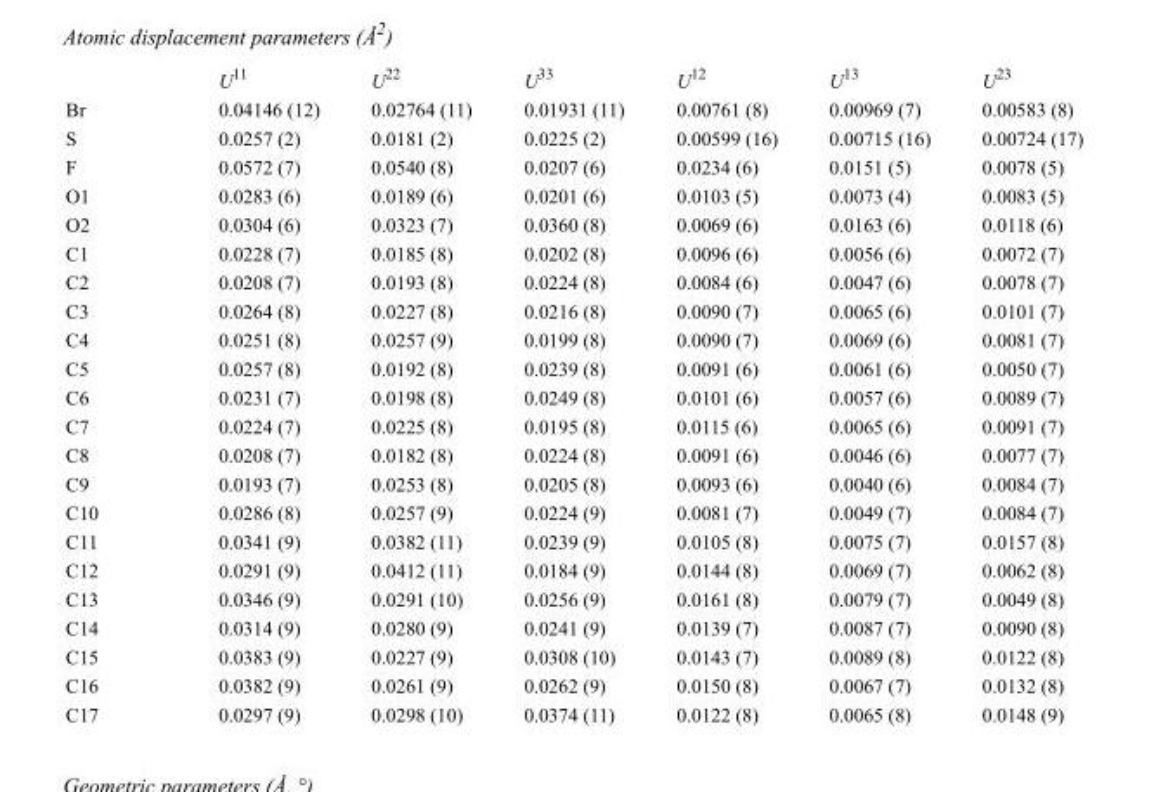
<table><thead><tr><td></td><td>U<sup>11</sup></td><td>U<sup>22</sup></td><td>U<sup>33</sup></td><td>U<sup>12</sup></td><td>U<sup>13</sup></td><td>U<sup>23</sup></td></tr></thead><tbody><tr><td>Br</td><td>0.04146 (12)</td><td>0.02764 (11)</td><td>0.01931 (11)</td><td>0.00761 (8)</td><td>0.00969 (7)</td><td>0.00583 (8)</td></tr><tr><td>S</td><td>0.0257 (2)</td><td>0.0181 (2)</td><td>0.0225 (2)</td><td>0.00599 (16)</td><td>0.00715 (16)</td><td>0.00724 (17)</td></tr><tr><td>F</td><td>0.0572 (7)</td><td>0.0540 (8)</td><td>0.0207 (6)</td><td>0.0234 (6)</td><td>0.0151 (5)</td><td>0.0078 (5)</td></tr><tr><td>O1</td><td>0.0283 (6)</td><td>0.0189 (6)</td><td>0.0201 (6)</td><td>0.0103 (5)</td><td>0.0073 (4)</td><td>0.0083 (5)</td></tr><tr><td>O2</td><td>0.0304 (6)</td><td>0.0323 (7)</td><td>0.0360 (8)</td><td>0.0069 (6)</td><td>0.0163 (6)</td><td>0.0118 (6)</td></tr><tr><td>C1</td><td>0.0228 (7)</td><td>0.0185 (8)</td><td>0.0202 (8)</td><td>0.0096 (6)</td><td>0.0056 (6)</td><td>0.0072 (7)</td></tr><tr><td>C2</td><td>0.0208 (7)</td><td>0.0193 (8)</td><td>0.0224 (8)</td><td>0.0084 (6)</td><td>0.0047 (6)</td><td>0.0078 (7)</td></tr><tr><td>C3</td><td>0.0264 (8)</td><td>0.0227 (8)</td><td>0.0216 (8)</td><td>0.0090 (7)</td><td>0.0065 (6)</td><td>0.0101 (7)</td></tr><tr><td>C4</td><td>0.0251 (8)</td><td>0.0257 (9)</td><td>0.0199 (8)</td><td>0.0090 (7)</td><td>0.0069 (6)</td><td>0.0081 (7)</td></tr><tr><td>C5</td><td>0.0257 (8)</td><td>0.0192 (8)</td><td>0.0239 (8)</td><td>0.0091 (6)</td><td>0.0061 (6)</td><td>0.0050 (7)</td></tr><tr><td>C6</td><td>0.0231 (7)</td><td>0.0198 (8)</td><td>0.0249 (8)</td><td>0.0101 (6)</td><td>0.0057 (6)</td><td>0.0089 (7)</td></tr><tr><td>C7</td><td>0.0224 (7)</td><td>0.0225 (8)</td><td>0.0195 (8)</td><td>0.0115 (6)</td><td>0.0065 (6)</td><td>0.0091 (7)</td></tr><tr><td>C8</td><td>0.0208 (7)</td><td>0.0182 (8)</td><td>0.0224 (8)</td><td>0.0091 (6)</td><td>0.0046 (6)</td><td>0.0077 (7)</td></tr><tr><td>C9</td><td>0.0193 (7)</td><td>0.0253 (8)</td><td>0.0205 (8)</td><td>0.0093 (6)</td><td>0.0040 (6)</td><td>0.0084 (7)</td></tr><tr><td>C10</td><td>0.0286 (8)</td><td>0.0257 (9)</td><td>0.0224 (9)</td><td>0.0081 (7)</td><td>0.0049 (7)</td><td>0.0084 (7)</td></tr><tr><td>C11</td><td>0.0341 (9)</td><td>0.0382 (11)</td><td>0.0239 (9)</td><td>0.0105 (8)</td><td>0.0075 (7)</td><td>0.0157 (8)</td></tr><tr><td>C12</td><td>0.0291 (9)</td><td>0.0412 (11)</td><td>0.0184 (9)</td><td>0.0144 (8)</td><td>0.0069 (7)</td><td>0.0062 (8)</td></tr><tr><td>C13</td><td>0.0346 (9)</td><td>0.0291 (10)</td><td>0.0256 (9)</td><td>0.0161 (8)</td><td>0.0079 (7)</td><td>0.0049 (8)</td></tr><tr><td>C14</td><td>0.0314 (9)</td><td>0.0280 (9)</td><td>0.0241 (9)</td><td>0.0139 (7)</td><td>0.0087 (7)</td><td>0.0090 (8)</td></tr><tr><td>C15</td><td>0.0383 (9)</td><td>0.0227 (9)</td><td>0.0308 (10)</td><td>0.0143 (7)</td><td>0.0089 (8)</td><td>0.0122 (8)</td></tr><tr><td>C16</td><td>0.0382 (9)</td><td>0.0261 (9)</td><td>0.0262 (9)</td><td>0.0150 (8)</td><td>0.0067 (7)</td><td>0.0132 (8)</td></tr><tr><td>C17</td><td>0.0297 (9)</td><td>0.0298 (10)</td><td>0.0374 (11)</td><td>0.0122 (8)</td><td>0.0065 (8)</td><td>0.0148 (9)</td></tr></tbody></table>